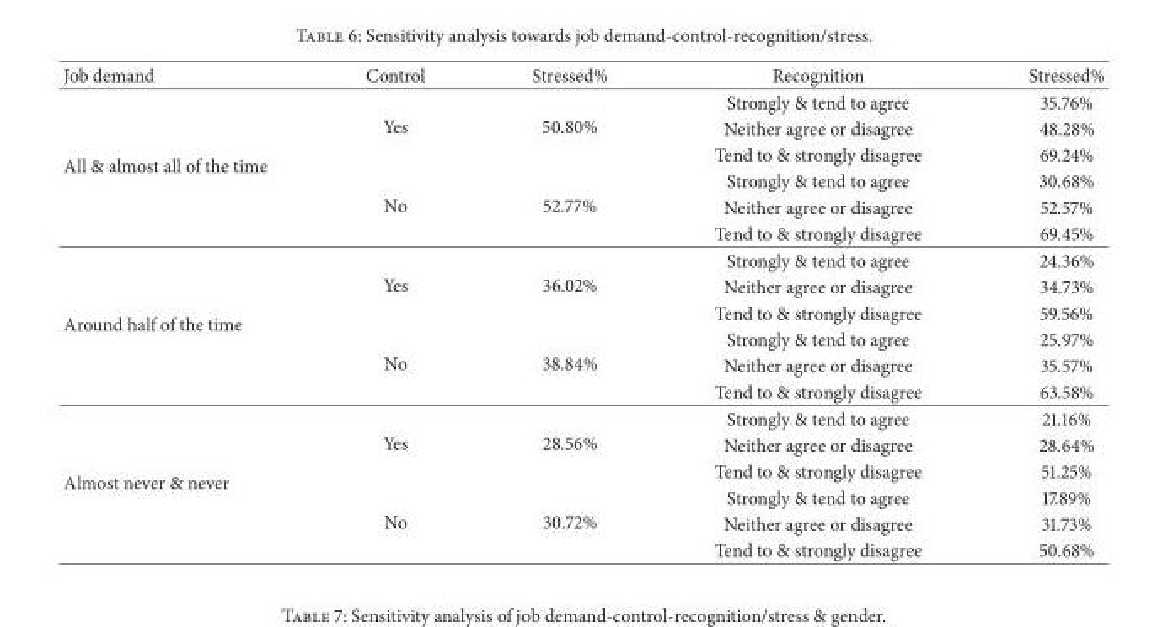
<table><thead><tr><td>Job demand</td><td>Control</td><td>Stressed%</td><td>Recognition</td><td>Stressed%</td></tr></thead><tbody><tr><td rowspan="6">All &amp; almost all of the time</td><td rowspan="3">Yes</td><td rowspan="3">50.80%</td><td>Strongly &amp; tend to agree</td><td>35.76%</td></tr><tr><td>Neither agree or disagree</td><td>48.28%</td></tr><tr><td>Tend to &amp; strongly disagree</td><td>69.24%</td></tr><tr><td rowspan="3">No</td><td rowspan="3">52.77%</td><td>Strongly &amp; tend to agree</td><td>30.68%</td></tr><tr><td>Neither agree or disagree</td><td>52.57%</td></tr><tr><td>Tend to &amp; strongly disagree</td><td>69.45%</td></tr><tr><td rowspan="6">Around half of the time</td><td rowspan="3">Yes</td><td rowspan="3">36.02%</td><td>Strongly &amp; tend to agree</td><td>24.36%</td></tr><tr><td>Neither agree or disagree</td><td>34.73%</td></tr><tr><td>Tend to &amp; strongly disagree</td><td>59.56%</td></tr><tr><td rowspan="3">No</td><td rowspan="3">38.84%</td><td>Strongly &amp; tend to agree</td><td>25.97%</td></tr><tr><td>Neither agree or disagree</td><td>35.57%</td></tr><tr><td>Tend to &amp; strongly disagree</td><td>63.58%</td></tr><tr><td rowspan="6">Almost never &amp; never</td><td rowspan="3">Yes</td><td rowspan="3">28.56%</td><td>Strongly &amp; tend to agree</td><td>21.16%</td></tr><tr><td>Neither agree or disagree</td><td>28.64%</td></tr><tr><td>Tend to &amp; strongly disagree</td><td>51.25%</td></tr><tr><td rowspan="3">No</td><td rowspan="3">30.72%</td><td>Strongly &amp; tend to agree</td><td>17.89%</td></tr><tr><td>Neither agree or disagree</td><td>31.73%</td></tr><tr><td>Tend to &amp; strongly disagree</td><td>50.68%</td></tr></tbody></table>